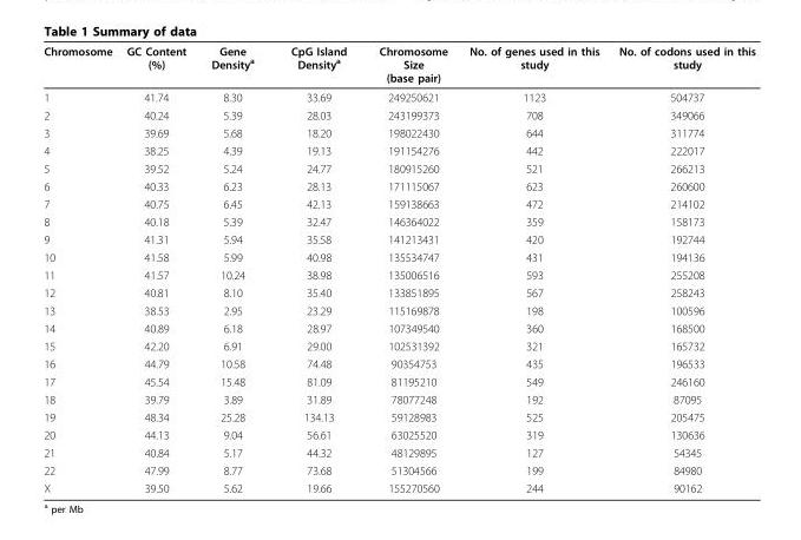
<table><thead><tr><td>Chromosome</td><td>GC Content (%)</td><td>Gene Density<sup>a</sup></td><td>CpG Island Density<sup>a</sup></td><td>Chromosome Size (base pair)</td><td>No. of genes used in this study</td><td>No. of codons used in this study</td></tr></thead><tbody><tr><td>1</td><td>41.74</td><td>8.30</td><td>33.69</td><td>249250621</td><td>1123</td><td>504737</td></tr><tr><td>2</td><td>40.24</td><td>5.39</td><td>28.03</td><td>243199373</td><td>708</td><td>349066</td></tr><tr><td>3</td><td>39.69</td><td>5.68</td><td>18.20</td><td>198022430</td><td>644</td><td>311774</td></tr><tr><td>4</td><td>38.25</td><td>4.39</td><td>19.13</td><td>191154276</td><td>442</td><td>222017</td></tr><tr><td>5</td><td>39.52</td><td>5.24</td><td>24.77</td><td>180915260</td><td>521</td><td>266213</td></tr><tr><td>6</td><td>40.33</td><td>6.23</td><td>28.13</td><td>171115067</td><td>623</td><td>260600</td></tr><tr><td>7</td><td>40.75</td><td>6.45</td><td>42.13</td><td>159138663</td><td>472</td><td>214102</td></tr><tr><td>8</td><td>40.18</td><td>5.39</td><td>32.47</td><td>146364022</td><td>359</td><td>158173</td></tr><tr><td>9</td><td>41.31</td><td>5.94</td><td>35.58</td><td>141213431</td><td>420</td><td>192744</td></tr><tr><td>10</td><td>41.58</td><td>5.99</td><td>40.98</td><td>135534747</td><td>431</td><td>194136</td></tr><tr><td>11</td><td>41.57</td><td>10.24</td><td>38.98</td><td>135006516</td><td>593</td><td>255208</td></tr><tr><td>12</td><td>40.81</td><td>8.10</td><td>35.40</td><td>133851895</td><td>567</td><td>258243</td></tr><tr><td>13</td><td>38.53</td><td>2.95</td><td>23.29</td><td>115169878</td><td>198</td><td>100596</td></tr><tr><td>14</td><td>40.89</td><td>6.18</td><td>28.97</td><td>107349540</td><td>360</td><td>168500</td></tr><tr><td>15</td><td>42.20</td><td>6.91</td><td>29.00</td><td>102531392</td><td>321</td><td>165732</td></tr><tr><td>16</td><td>44.79</td><td>10.58</td><td>74.48</td><td>90354753</td><td>435</td><td>196533</td></tr><tr><td>17</td><td>45.54</td><td>15.48</td><td>81.09</td><td>81195210</td><td>549</td><td>246160</td></tr><tr><td>18</td><td>39.79</td><td>3.89</td><td>31.89</td><td>78077248</td><td>192</td><td>87095</td></tr><tr><td>19</td><td>48.34</td><td>25.28</td><td>134.13</td><td>59128983</td><td>525</td><td>205475</td></tr><tr><td>20</td><td>44.13</td><td>9.04</td><td>56.61</td><td>63025520</td><td>319</td><td>130636</td></tr><tr><td>21</td><td>40.84</td><td>5.17</td><td>44.32</td><td>48129895</td><td>127</td><td>54345</td></tr><tr><td>22</td><td>47.99</td><td>8.77</td><td>73.68</td><td>51304566</td><td>199</td><td>84980</td></tr><tr><td>X</td><td>39.50</td><td>5.62</td><td>19.66</td><td>155270560</td><td>244</td><td>90162</td></tr></tbody></table>